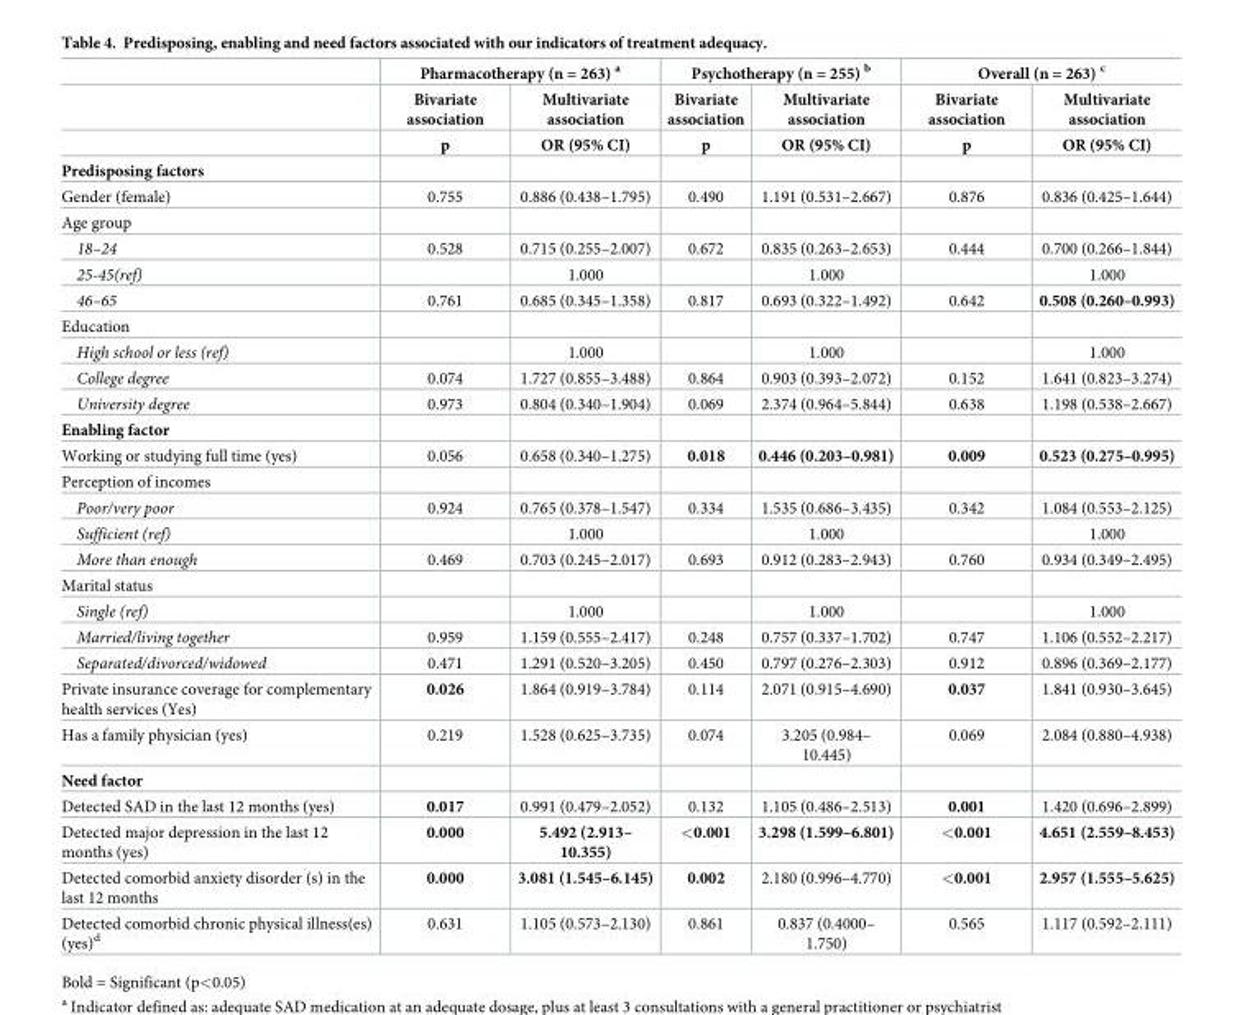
<table><thead><tr><td rowspan="3"></td><td colspan="2">Pharmacotherapy (n = 263) <sup>a</sup></td><td colspan="2">Psychotherapy (n = 255) <sup>b</sup></td><td colspan="2">Overall (n = 263) <sup>c</sup></td></tr><tr><td rowspan="2">Bivariate association p</td><td rowspan="2">Multivariate association OR (95% CI)</td><td rowspan="2">Bivariate association p</td><td rowspan="2">Multivariate association OR (95% CI)</td><td rowspan="2">Bivariate association p</td><td rowspan="2">Multivariate association OR (95% CI)</td></tr><tr></tr></thead><tbody><tr><td colspan="7">Predisposing factors</td></tr><tr><td>Gender (female)</td><td>0.755</td><td>0.886 (0.438–1.795)</td><td>0.490</td><td>1.191 (0.531–2.667)</td><td>0.876</td><td>0.836 (0.425–1.644)</td></tr><tr><td colspan="7">Age group</td></tr><tr><td>18–24</td><td>0.528</td><td>0.715 (0.255–2.007)</td><td>0.672</td><td>0.835 (0.263–2.653)</td><td>0.444</td><td>0.700 (0.266–1.844)</td></tr><tr><td>25-45(ref)</td><td></td><td>1.000</td><td></td><td>1.000</td><td></td><td>1.000</td></tr><tr><td>46–65</td><td>0.761</td><td>0.685 (0.345–1.358)</td><td>0.817</td><td>0.693 (0.322–1.492)</td><td>0.642</td><td>0.508 (0.260–0.993)</td></tr><tr><td colspan="7">Education</td></tr><tr><td>High school or less (ref)</td><td></td><td>1.000</td><td></td><td>1.000</td><td></td><td>1.000</td></tr><tr><td>College degree</td><td>0.074</td><td>1.727 (0.855–3.488)</td><td>0.864</td><td>0.903 (0.393–2.072)</td><td>0.152</td><td>1.641 (0.823–3.274)</td></tr><tr><td>University degree</td><td>0.973</td><td>0.804 (0.340–1.904)</td><td>0.069</td><td>2.374 (0.964–5.844)</td><td>0.638</td><td>1.198 (0.538–2.667)</td></tr><tr><td colspan="7">Enabling factor</td></tr><tr><td>Working or studying full time (yes)</td><td>0.056</td><td>0.658 (0.340–1.275)</td><td>0.018</td><td>0.446 (0.203–0.981)</td><td>0.009</td><td>0.523 (0.275–0.995)</td></tr><tr><td colspan="7">Perception of incomes</td></tr><tr><td>Poor/very poor</td><td>0.924</td><td>0.765 (0.378–1.547)</td><td>0.334</td><td>1.535 (0.686–3.435)</td><td>0.342</td><td>1.084 (0.553–2.125)</td></tr><tr><td>Sufficient (ref)</td><td></td><td>1.000</td><td></td><td>1.000</td><td></td><td>1.000</td></tr><tr><td>More than enough</td><td>0.469</td><td>0.703 (0.245–2.017)</td><td>0.693</td><td>0.912 (0.283–2.943)</td><td>0.760</td><td>0.934 (0.349–2.495)</td></tr><tr><td colspan="7">Marital status</td></tr><tr><td>Single (ref)</td><td></td><td>1.000</td><td></td><td>1.000</td><td></td><td>1.000</td></tr><tr><td>Married/living together</td><td>0.959</td><td>1.159 (0.555–2.417)</td><td>0.248</td><td>0.757 (0.337–1.702)</td><td>0.747</td><td>1.106 (0.552–2.217)</td></tr><tr><td>Separated/divorced/widowed</td><td>0.471</td><td>1.291 (0.520–3.205)</td><td>0.450</td><td>0.797 (0.276–2.303)</td><td>0.912</td><td>0.896 (0.369–2.177)</td></tr><tr><td>Private insurance coverage for complementary health services (Yes)</td><td>0.026</td><td>1.864 (0.919–3.784)</td><td>0.114</td><td>2.071 (0.915–4.690)</td><td>0.037</td><td>1.841 (0.930–3.645)</td></tr><tr><td>Has a family physician (yes)</td><td>0.219</td><td>1.528 (0.625–3.735)</td><td>0.074</td><td>3.205 (0.984– 10.445)</td><td>0.069</td><td>2.084 (0.880–4.938)</td></tr><tr><td colspan="7">Need factor</td></tr><tr><td>Detected SAD in the last 12 months (yes)</td><td>0.017</td><td>0.991 (0.479–2.052)</td><td>0.132</td><td>1.105 (0.486–2.513)</td><td>0.001</td><td>1.420 (0.696–2.899)</td></tr><tr><td>Detected major depression in the last 12 months (yes)</td><td>0.000</td><td>5.492 (2.913– 10.355)</td><td>&lt;0.001</td><td>3.298 (1.599–6.801)</td><td>&lt;0.001</td><td>4.651 (2.559–8.453)</td></tr><tr><td>Detected comorbid anxiety disorder (s) in the last 12 months</td><td>0.000</td><td>3.081 (1.545–6.145)</td><td>0.002</td><td>2.180 (0.996–4.770)</td><td>&lt;0.001</td><td>2.957 (1.555–5.625)</td></tr><tr><td>Detected comorbid chronic physical illness(es) (yes)<sup>d</sup></td><td>0.631</td><td>1.105 (0.573–2.130)</td><td>0.861</td><td>0.837 (0.4000– 1.750)</td><td>0.565</td><td>1.117 (0.592–2.111)</td></tr></tbody></table>